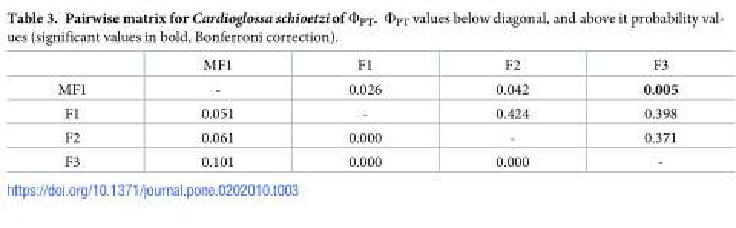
<table><thead><tr><td></td><td>MF1</td><td>F1</td><td>F2</td><td>F3</td></tr></thead><tbody><tr><td>MF1</td><td>-</td><td>0.026</td><td>0.042</td><td>0.005</td></tr><tr><td>F1</td><td>0.051</td><td>-</td><td>0.424</td><td>0.398</td></tr><tr><td>F2</td><td>0.061</td><td>0.000</td><td>-</td><td>0.371</td></tr><tr><td>F3</td><td>0.101</td><td>0.000</td><td>0.000</td><td>-</td></tr></tbody></table>